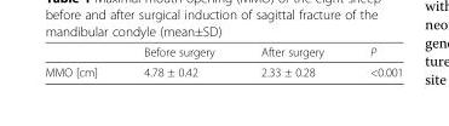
<table><thead><tr><td></td><td>Before surgery</td><td>After surgery</td><td>P</td></tr></thead><tbody><tr><td>MMO [cm]</td><td>4.78 ± 0.42</td><td>2.33 ± 0.28</td><td>&lt;0.001</td></tr></tbody></table>